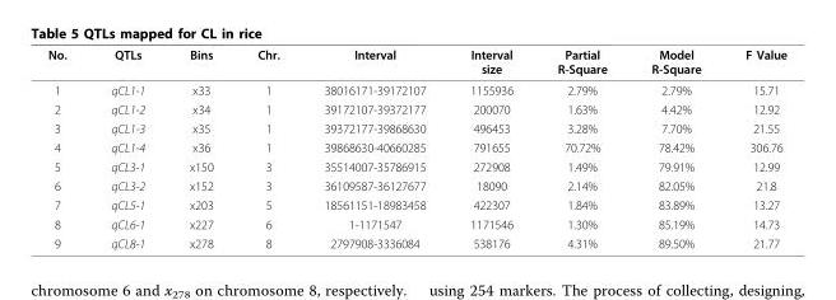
<table><thead><tr><td>No.</td><td>QTLs</td><td>Bins</td><td>Chr.</td><td>Interval</td><td>Interval size</td><td>Partial R-Square</td><td>Model R-Square</td><td>F Value</td></tr></thead><tbody><tr><td>1</td><td>qCL1-1</td><td>x33</td><td>1</td><td>38016171-39172107</td><td>1155936</td><td>2.79%</td><td>2.79%</td><td>15.71</td></tr><tr><td>2</td><td>qCL1-2</td><td>x34</td><td>1</td><td>39172107-39372177</td><td>200070</td><td>1.63%</td><td>4.42%</td><td>12.92</td></tr><tr><td>3</td><td>qCL1-3</td><td>x35</td><td>1</td><td>39372177-39868630</td><td>496453</td><td>3.28%</td><td>7.70%</td><td>21.55</td></tr><tr><td>4</td><td>qCL1-4</td><td>x36</td><td>1</td><td>39868630-40660285</td><td>791655</td><td>70.72%</td><td>78.42%</td><td>306.76</td></tr><tr><td>5</td><td>qCL3-1</td><td>x150</td><td>3</td><td>35514007-35786915</td><td>272908</td><td>1.49%</td><td>79.91%</td><td>12.99</td></tr><tr><td>6</td><td>qCL3-2</td><td>x152</td><td>3</td><td>36109587-36127677</td><td>18090</td><td>2.14%</td><td>82.05%</td><td>21.8</td></tr><tr><td>7</td><td>qCL5-1</td><td>x203</td><td>5</td><td>18561151-18983458</td><td>422307</td><td>1.84%</td><td>83.89%</td><td>13.27</td></tr><tr><td>8</td><td>qCL6-1</td><td>x227</td><td>6</td><td>1-1171547</td><td>1171546</td><td>1.30%</td><td>85.19%</td><td>14.73</td></tr><tr><td>9</td><td>qCL8-1</td><td>x278</td><td>8</td><td>2797908-3336084</td><td>538176</td><td>4.31%</td><td>89.50%</td><td>21.77</td></tr></tbody></table>